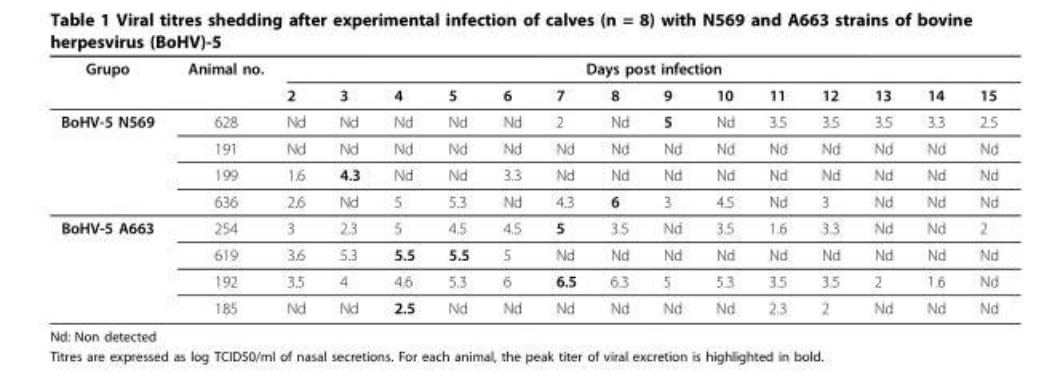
<table><thead><tr><td rowspan="2">Grupo</td><td rowspan="2">Animal no.</td><td colspan="14">Days post infection</td></tr><tr><td>2</td><td>3</td><td>4</td><td>5</td><td>6</td><td>7</td><td>8</td><td>9</td><td>10</td><td>11</td><td>12</td><td>13</td><td>14</td><td>15</td></tr></thead><tbody><tr><td rowspan="4">BoHV-5 N569</td><td>628</td><td>Nd</td><td>Nd</td><td>Nd</td><td>Nd</td><td>Nd</td><td>2</td><td>Nd</td><td>5</td><td>Nd</td><td>3.5</td><td>3.5</td><td>3.5</td><td>3.3</td><td>2.5</td></tr><tr><td>191</td><td>Nd</td><td>Nd</td><td>Nd</td><td>Nd</td><td>Nd</td><td>Nd</td><td>Nd</td><td>Nd</td><td>Nd</td><td>Nd</td><td>Nd</td><td>Nd</td><td>Nd</td><td>Nd</td></tr><tr><td>199</td><td>1.6</td><td>4.3</td><td>Nd</td><td>Nd</td><td>3.3</td><td>Nd</td><td>Nd</td><td>Nd</td><td>Nd</td><td>Nd</td><td>Nd</td><td>Nd</td><td>Nd</td><td>Nd</td></tr><tr><td>636</td><td>2.6</td><td>Nd</td><td>5</td><td>5.3</td><td>Nd</td><td>4.3</td><td>6</td><td>3</td><td>4.5</td><td>Nd</td><td>3</td><td>Nd</td><td>Nd</td><td>Nd</td></tr><tr><td rowspan="4">BoHV-5 A663</td><td>254</td><td>3</td><td>2.3</td><td>5</td><td>4.5</td><td>4.5</td><td>5</td><td>3.5</td><td>Nd</td><td>3.5</td><td>1.6</td><td>3.3</td><td>Nd</td><td>Nd</td><td>2</td></tr><tr><td>619</td><td>3.6</td><td>5.3</td><td>5.5</td><td>5.5</td><td>5</td><td>Nd</td><td>Nd</td><td>Nd</td><td>Nd</td><td>Nd</td><td>Nd</td><td>Nd</td><td>Nd</td><td>Nd</td></tr><tr><td>192</td><td>3.5</td><td>4</td><td>4.6</td><td>5.3</td><td>6</td><td>6.5</td><td>6.3</td><td>5</td><td>5.3</td><td>3.5</td><td>3.5</td><td>2</td><td>1.6</td><td>Nd</td></tr><tr><td>185</td><td>Nd</td><td>Nd</td><td>2.5</td><td>Nd</td><td>Nd</td><td>Nd</td><td>Nd</td><td>Nd</td><td>Nd</td><td>2.3</td><td>2</td><td>Nd</td><td>Nd</td><td>Nd</td></tr></tbody></table>